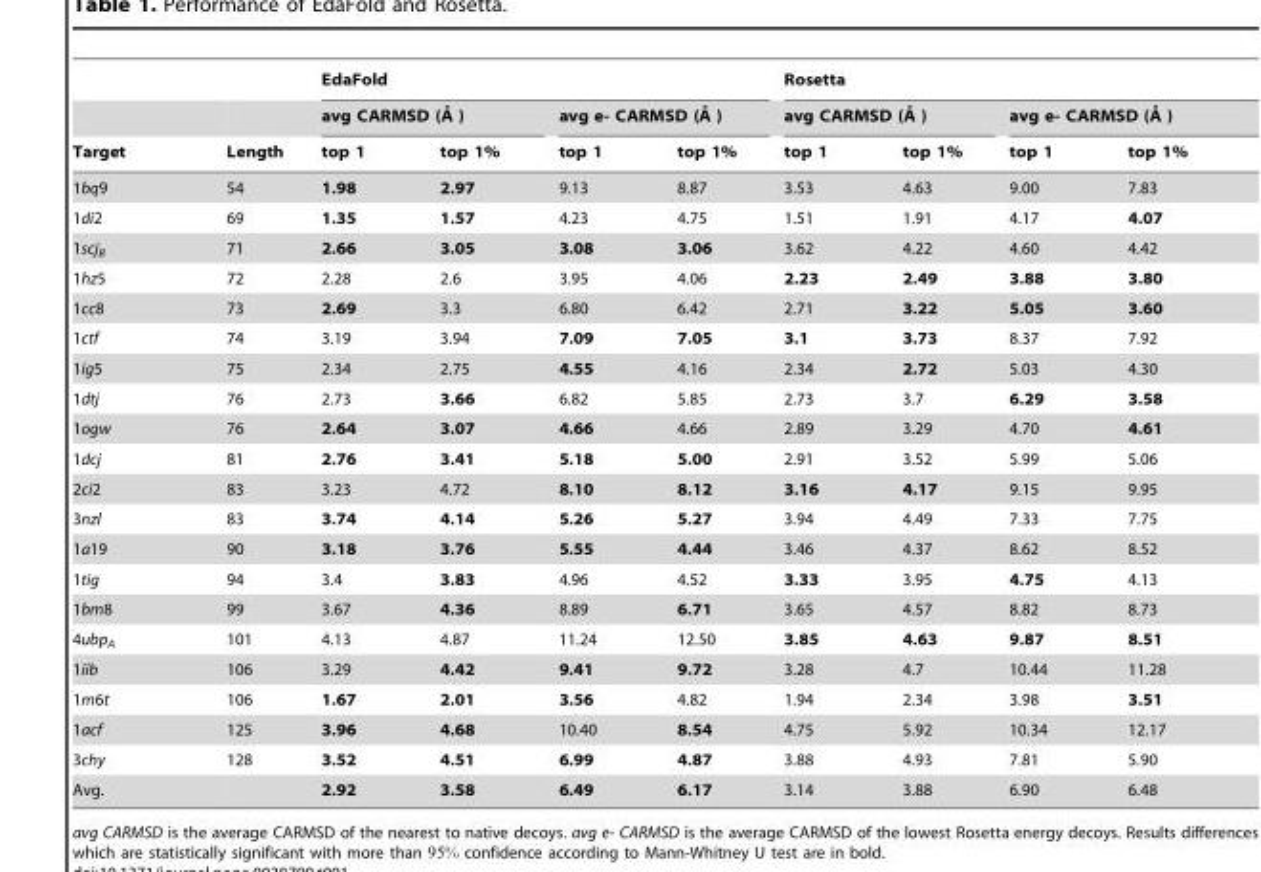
<table><thead><tr><td rowspan="3">Target</td><td rowspan="3">Length</td><td colspan="4">EdaFold</td><td colspan="4">Rosetta</td></tr><tr><td colspan="2">avg CARMSD (A˚ )</td><td colspan="2">avg e- CARMSD (A˚ )</td><td colspan="2">avg CARMSD (A˚ )</td><td colspan="2">avg e- CARMSD (A˚ )</td></tr><tr><td>top 1</td><td>top 1%</td><td>top 1</td><td>top 1%</td><td>top 1</td><td>top 1%</td><td>top 1</td><td>top 1%</td></tr></thead><tbody><tr><td>1bq9</td><td>54</td><td>1.98</td><td>2.97</td><td>9.13</td><td>8.87</td><td>3.53</td><td>4.63</td><td>9.00</td><td>7.83</td></tr><tr><td>1di2</td><td>69</td><td>1.35</td><td>1.57</td><td>4.23</td><td>4.75</td><td>1.51</td><td>1.91</td><td>4.17</td><td>4.07</td></tr><tr><td>1scj<sub>B</sub></td><td>71</td><td>2.66</td><td>3.05</td><td>3.08</td><td>3.06</td><td>3.62</td><td>4.22</td><td>4.60</td><td>4.42</td></tr><tr><td>1hz5</td><td>72</td><td>2.28</td><td>2.6</td><td>3.95</td><td>4.06</td><td>2.23</td><td>2.49</td><td>3.88</td><td>3.80</td></tr><tr><td>1cc8</td><td>73</td><td>2.69</td><td>3.3</td><td>6.80</td><td>6.42</td><td>2.71</td><td>3.22</td><td>5.05</td><td>3.60</td></tr><tr><td>1ctf</td><td>74</td><td>3.19</td><td>3.94</td><td>7.09</td><td>7.05</td><td>3.1</td><td>3.73</td><td>8.37</td><td>7.92</td></tr><tr><td>1ig5</td><td>75</td><td>2.34</td><td>2.75</td><td>4.55</td><td>4.16</td><td>2.34</td><td>2.72</td><td>5.03</td><td>4.30</td></tr><tr><td>1dtj</td><td>76</td><td>2.73</td><td>3.66</td><td>6.82</td><td>5.85</td><td>2.73</td><td>3.7</td><td>6.29</td><td>3.58</td></tr><tr><td>1ogw</td><td>76</td><td>2.64</td><td>3.07</td><td>4.66</td><td>4.66</td><td>2.89</td><td>3.29</td><td>4.70</td><td>4.61</td></tr><tr><td>1dcj</td><td>81</td><td>2.76</td><td>3.41</td><td>5.18</td><td>5.00</td><td>2.91</td><td>3.52</td><td>5.99</td><td>5.06</td></tr><tr><td>2ci2</td><td>83</td><td>3.23</td><td>4.72</td><td>8.10</td><td>8.12</td><td>3.16</td><td>4.17</td><td>9.15</td><td>9.95</td></tr><tr><td>3nzl</td><td>83</td><td>3.74</td><td>4.14</td><td>5.26</td><td>5.27</td><td>3.94</td><td>4.49</td><td>7.33</td><td>7.75</td></tr><tr><td>1a19</td><td>90</td><td>3.18</td><td>3.76</td><td>5.55</td><td>4.44</td><td>3.46</td><td>4.37</td><td>8.62</td><td>8.52</td></tr><tr><td>1tig</td><td>94</td><td>3.4</td><td>3.83</td><td>4.96</td><td>4.52</td><td>3.33</td><td>3.95</td><td>4.75</td><td>4.13</td></tr><tr><td>1bm8</td><td>99</td><td>3.67</td><td>4.36</td><td>8.89</td><td>6.71</td><td>3.65</td><td>4.57</td><td>8.82</td><td>8.73</td></tr><tr><td>4ubp<sub>A</sub></td><td>101</td><td>4.13</td><td>4.87</td><td>11.24</td><td>12.50</td><td>3.85</td><td>4.63</td><td>9.87</td><td>8.51</td></tr><tr><td>1iib</td><td>106</td><td>3.29</td><td>4.42</td><td>9.41</td><td>9.72</td><td>3.28</td><td>4.7</td><td>10.44</td><td>11.28</td></tr><tr><td>1m6t</td><td>106</td><td>1.67</td><td>2.01</td><td>3.56</td><td>4.82</td><td>1.94</td><td>2.34</td><td>3.98</td><td>3.51</td></tr><tr><td>1acf</td><td>125</td><td>3.96</td><td>4.68</td><td>10.40</td><td>8.54</td><td>4.75</td><td>5.92</td><td>10.34</td><td>12.17</td></tr><tr><td>3chy</td><td>128</td><td>3.52</td><td>4.51</td><td>6.99</td><td>4.87</td><td>3.88</td><td>4.93</td><td>7.81</td><td>5.90</td></tr><tr><td>Avg.</td><td></td><td>2.92</td><td>3.58</td><td>6.49</td><td>6.17</td><td>3.14</td><td>3.88</td><td>6.90</td><td>6.48</td></tr></tbody></table>